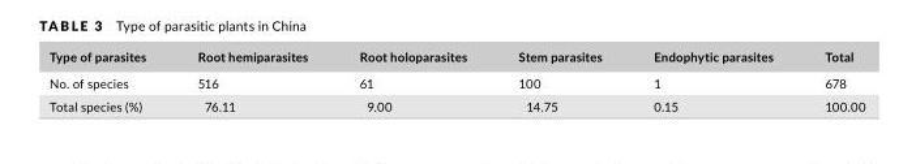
<table><thead><tr><td>Type of parasites</td><td>Root hemiparasites</td><td>Root holoparasites</td><td>Stem parasites</td><td>Endophytic parasites</td><td>Total</td></tr></thead><tbody><tr><td>No. of species</td><td>516</td><td>61</td><td>100</td><td>1</td><td>678</td></tr><tr><td>Total species (%)</td><td>76.11</td><td>9.00</td><td>14.75</td><td>0.15</td><td>100.00</td></tr></tbody></table>